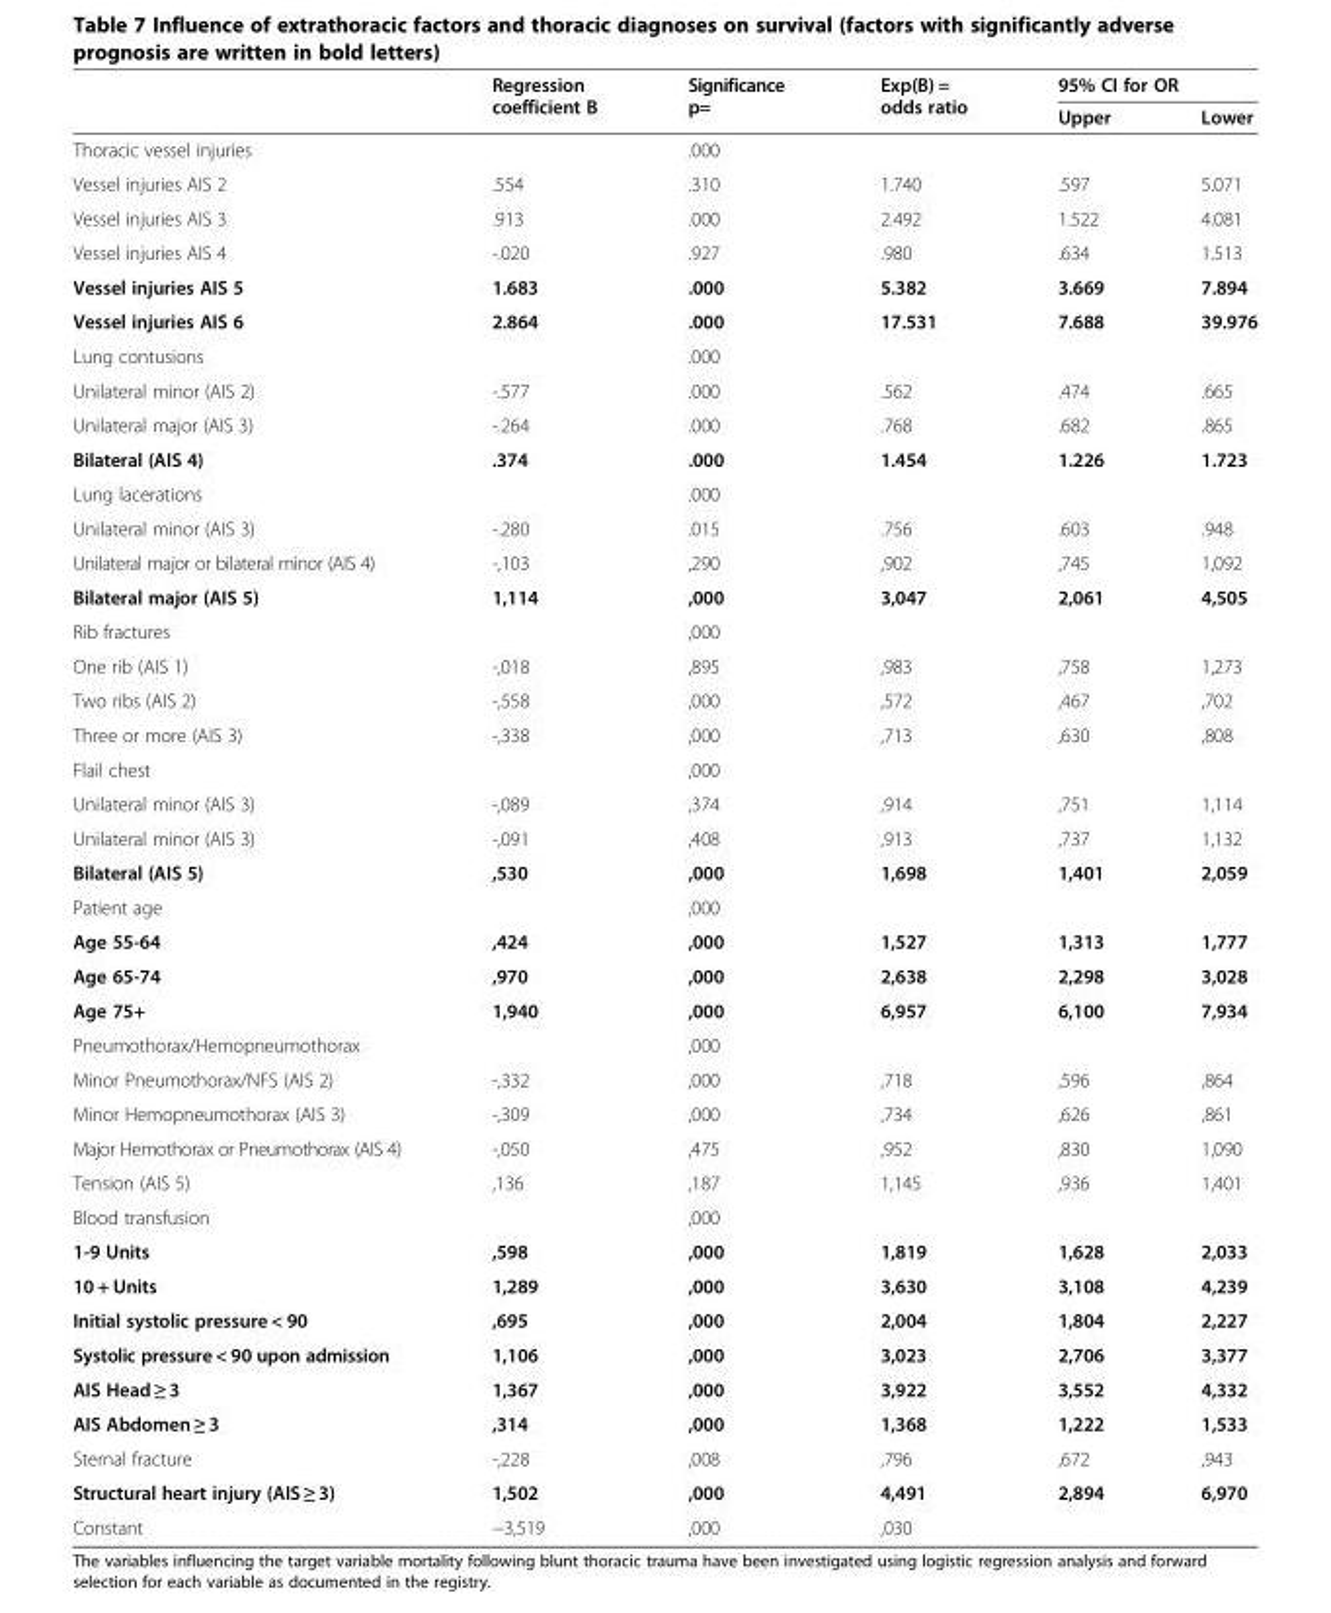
<table><thead><tr><td rowspan="2"></td><td rowspan="2">Regression coefficient B</td><td rowspan="2">Significance p=</td><td rowspan="2">Exp(B) = odds ratio</td><td colspan="2">95% CI for OR</td></tr><tr><td>Upper</td><td>Lower</td></tr></thead><tbody><tr><td>Thoracic vessel injuries</td><td></td><td>.000</td><td></td><td></td><td></td></tr><tr><td>Vessel injuries AIS 2</td><td>.554</td><td>.310</td><td>1.740</td><td>.597</td><td>5.071</td></tr><tr><td>Vessel injuries AIS 3</td><td>.913</td><td>.000</td><td>2.492</td><td>1.522</td><td>4.081</td></tr><tr><td>Vessel injuries AIS 4</td><td>-.020</td><td>.927</td><td>.980</td><td>.634</td><td>1.513</td></tr><tr><td>Vessel injuries AIS 5</td><td>1.683</td><td>.000</td><td>5.382</td><td>3.669</td><td>7.894</td></tr><tr><td>Vessel injuries AIS 6</td><td>2.864</td><td>.000</td><td>17.531</td><td>7.688</td><td>39.976</td></tr><tr><td>Lung contusions</td><td></td><td>.000</td><td></td><td></td><td></td></tr><tr><td>Unilateral minor (AIS 2)</td><td>-.577</td><td>.000</td><td>.562</td><td>.474</td><td>.665</td></tr><tr><td>Unilateral major (AIS 3)</td><td>-.264</td><td>.000</td><td>.768</td><td>.682</td><td>.865</td></tr><tr><td>Bilateral (AIS 4)</td><td>.374</td><td>.000</td><td>1.454</td><td>1.226</td><td>1.723</td></tr><tr><td>Lung lacerations</td><td></td><td>.000</td><td></td><td></td><td></td></tr><tr><td>Unilateral minor (AIS 3)</td><td>-.280</td><td>.015</td><td>.756</td><td>.603</td><td>.948</td></tr><tr><td>Unilateral major or bilateral minor (AIS 4)</td><td>-,103</td><td>,290</td><td>,902</td><td>,745</td><td>1,092</td></tr><tr><td>Bilateral major (AIS 5)</td><td>1,114</td><td>,000</td><td>3,047</td><td>2,061</td><td>4,505</td></tr><tr><td>Rib fractures</td><td></td><td>,000</td><td></td><td></td><td></td></tr><tr><td>One rib (AIS 1)</td><td>-,018</td><td>,895</td><td>,983</td><td>,758</td><td>1,273</td></tr><tr><td>Two ribs (AIS 2)</td><td>-,558</td><td>,000</td><td>,572</td><td>,467</td><td>,702</td></tr><tr><td>Three or more (AIS 3)</td><td>-,338</td><td>,000</td><td>,713</td><td>,630</td><td>,808</td></tr><tr><td>Flail chest</td><td></td><td>,000</td><td></td><td></td><td></td></tr><tr><td>Unilateral minor (AIS 3)</td><td>-,089</td><td>,374</td><td>,914</td><td>,751</td><td>1,114</td></tr><tr><td>Unilateral minor (AIS 3)</td><td>-,091</td><td>,408</td><td>,913</td><td>,737</td><td>1,132</td></tr><tr><td>Bilateral (AIS 5)</td><td>,530</td><td>,000</td><td>1,698</td><td>1,401</td><td>2,059</td></tr><tr><td>Patient age</td><td></td><td>,000</td><td></td><td></td><td></td></tr><tr><td>Age 55-64</td><td>,424</td><td>,000</td><td>1,527</td><td>1,313</td><td>1,777</td></tr><tr><td>Age 65-74</td><td>,970</td><td>,000</td><td>2,638</td><td>2,298</td><td>3,028</td></tr><tr><td>Age 75+</td><td>1,940</td><td>,000</td><td>6,957</td><td>6,100</td><td>7,934</td></tr><tr><td>Pneumothorax/Hemopneumothorax</td><td></td><td>,000</td><td></td><td></td><td></td></tr><tr><td>Minor Pneumothorax/NFS (AIS 2)</td><td>-,332</td><td>,000</td><td>,718</td><td>,596</td><td>,864</td></tr><tr><td>Minor Hemopneumothorax (AIS 3)</td><td>-,309</td><td>,000</td><td>,734</td><td>,626</td><td>,861</td></tr><tr><td>Major Hemothorax or Pneumothorax (AIS 4)</td><td>-,050</td><td>,475</td><td>,952</td><td>,830</td><td>1,090</td></tr><tr><td>Tension (AIS 5)</td><td>,136</td><td>,187</td><td>1,145</td><td>,936</td><td>1,401</td></tr><tr><td>Blood transfusion</td><td></td><td>,000</td><td></td><td></td><td></td></tr><tr><td>1-9 Units</td><td>,598</td><td>,000</td><td>1,819</td><td>1,628</td><td>2,033</td></tr><tr><td>10 + Units</td><td>1,289</td><td>,000</td><td>3,630</td><td>3,108</td><td>4,239</td></tr><tr><td>Initial systolic pressure &lt; 90</td><td>,695</td><td>,000</td><td>2,004</td><td>1,804</td><td>2,227</td></tr><tr><td>Systolic pressure &lt; 90 upon admission</td><td>1,106</td><td>,000</td><td>3,023</td><td>2,706</td><td>3,377</td></tr><tr><td>AIS Head ≥ 3</td><td>1,367</td><td>,000</td><td>3,922</td><td>3,552</td><td>4,332</td></tr><tr><td>AIS Abdomen ≥ 3</td><td>,314</td><td>,000</td><td>1,368</td><td>1,222</td><td>1,533</td></tr><tr><td>Sternal fracture</td><td>-,228</td><td>,008</td><td>,796</td><td>,672</td><td>,943</td></tr><tr><td>Structural heart injury (AIS ≥ 3)</td><td>1,502</td><td>,000</td><td>4,491</td><td>2,894</td><td>6,970</td></tr><tr><td>Constant</td><td>−3,519</td><td>,000</td><td>,030</td><td></td><td></td></tr></tbody></table>